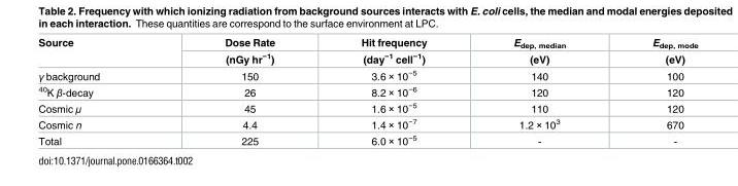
<table><thead><tr><td rowspan="2">Source</td><td rowspan="2">Dose Rate (nGy hr<sup>−1</sup>)</td><td rowspan="2">Hit frequency (day<sup>−1</sup> cell<sup>−1</sup>)</td><td rowspan="2">E<sub>dep, median</sub> (eV)</td><td rowspan="2">E<sub>dep, mode</sub> (eV)</td></tr><tr></tr></thead><tbody><tr><td>γ background</td><td>150</td><td>3.6 × 10<sup>−5</sup></td><td>140</td><td>100</td></tr><tr><td><sup>40</sup>K β-decay</td><td>26</td><td>8.2 × 10<sup>−6</sup></td><td>120</td><td>120</td></tr><tr><td>Cosmic μ</td><td>45</td><td>1.6 × 10<sup>−5</sup></td><td>110</td><td>120</td></tr><tr><td>Cosmic n</td><td>4.4</td><td>1.4 × 10<sup>−7</sup></td><td>1.2 × 10<sup>3</sup></td><td>670</td></tr><tr><td>Total</td><td>225</td><td>6.0 × 10<sup>−5</sup></td><td>-</td><td>-</td></tr></tbody></table>